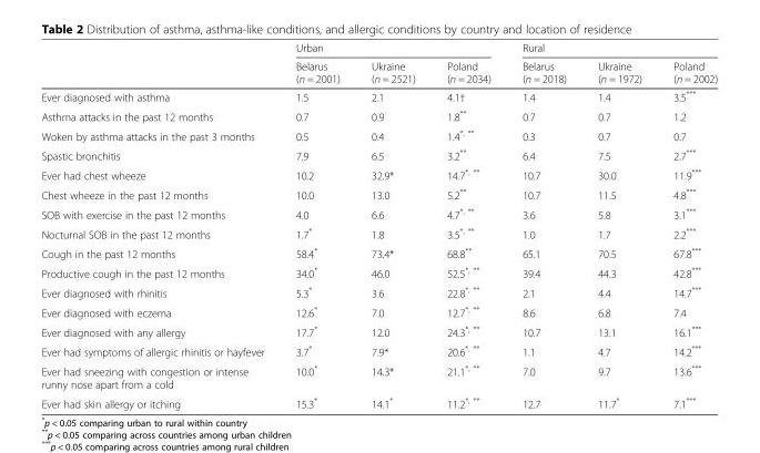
<table><thead><tr><td rowspan="2"></td><td colspan="3">Urban</td><td colspan="3">Rural</td></tr><tr><td>Belarus (n = 2001)</td><td>Ukraine (n = 2521)</td><td>Poland (n = 2034)</td><td>Belarus (n = 2018)</td><td>Ukraine (n = 1972)</td><td>Poland (n = 2002)</td></tr></thead><tbody><tr><td>Ever diagnosed with asthma</td><td>1.5</td><td>2.1</td><td>4.1†</td><td>1.4</td><td>1.4</td><td>3.5***</td></tr><tr><td>Asthma attacks in the past 12 months</td><td>0.7</td><td>0.9</td><td>1.8**</td><td>0.7</td><td>0.7</td><td>1.2</td></tr><tr><td>Woken by asthma attacks in the past 3 months</td><td>0.5</td><td>0.4</td><td>1.4<sup>*, **</sup></td><td>0.3</td><td>0.7</td><td>0.7</td></tr><tr><td>Spastic bronchitis</td><td>7.9</td><td>6.5</td><td>3.2**</td><td>6.4</td><td>7.5</td><td>2.7***</td></tr><tr><td>Ever had chest wheeze</td><td>10.2</td><td>32.9*</td><td>14.7<sup>*, **</sup></td><td>10.7</td><td>30.0</td><td>11.9***</td></tr><tr><td>Chest wheeze in the past 12 months</td><td>10.0</td><td>13.0</td><td>5.2**</td><td>10.7</td><td>11.5</td><td>4.8***</td></tr><tr><td>SOB with exercise in the past 12 months</td><td>4.0</td><td>6.6</td><td>4.7<sup>*, **</sup></td><td>3.6</td><td>5.8</td><td>3.1***</td></tr><tr><td>Nocturnal SOB in the past 12 months</td><td>1.7*</td><td>1.8</td><td>3.5<sup>*, **</sup></td><td>1.0</td><td>1.7</td><td>2.2***</td></tr><tr><td>Cough in the past 12 months</td><td>58.4*</td><td>73.4*</td><td>68.8**</td><td>65.1</td><td>70.5</td><td>67.8***</td></tr><tr><td>Productive cough in the past 12 months</td><td>34.0*</td><td>46.0</td><td>52.5<sup>*, **</sup></td><td>39.4</td><td>44.3</td><td>42.8***</td></tr><tr><td>Ever diagnosed with rhinitis</td><td>5.3*</td><td>3.6</td><td>22.8<sup>*, **</sup></td><td>2.1</td><td>4.4</td><td>14.7***</td></tr><tr><td>Ever diagnosed with eczema</td><td>12.6*</td><td>7.0</td><td>12.7<sup>*, **</sup></td><td>8.6</td><td>6.8</td><td>7.4</td></tr><tr><td>Ever diagnosed with any allergy</td><td>17.7*</td><td>12.0</td><td>24.3<sup>*, **</sup></td><td>10.7</td><td>13.1</td><td>16.1***</td></tr><tr><td>Ever had symptoms of allergic rhinitis or hayfever</td><td>3.7*</td><td>7.9*</td><td>20.6<sup>*, **</sup></td><td>1.1</td><td>4.7</td><td>14.2***</td></tr><tr><td>Ever had sneezing with congestion or intense runny nose apart from a cold</td><td>10.0*</td><td>14.3*</td><td>21.1<sup>*, **</sup></td><td>7.0</td><td>9.7</td><td>13.6***</td></tr><tr><td>Ever had skin allergy or itching</td><td>15.3*</td><td>14.1*</td><td>11.2<sup>*, **</sup></td><td>12.7</td><td>11.7*</td><td>7.1***</td></tr></tbody></table>